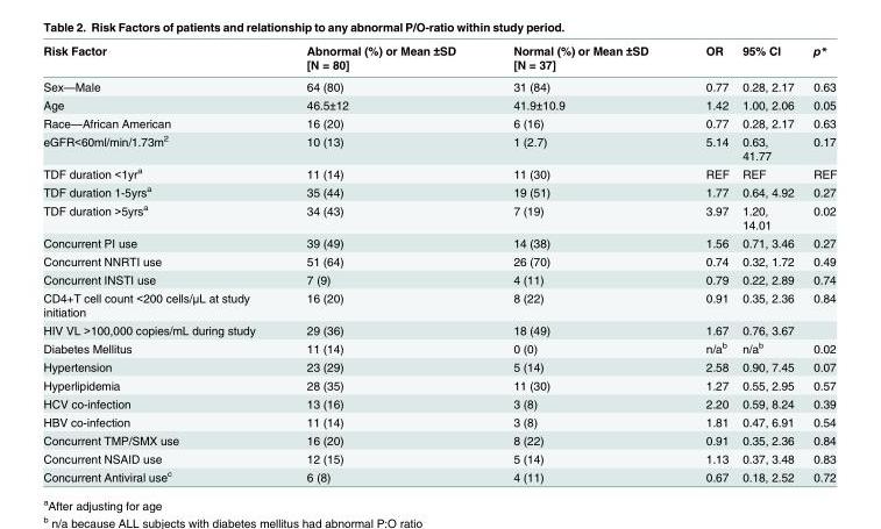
<table><thead><tr><td>Risk Factor</td><td>Abnormal (%) or Mean ±SD [N = 80]</td><td>Normal (%) or Mean ±SD [N = 37]</td><td>OR</td><td>95% CI</td><td>p*</td></tr></thead><tbody><tr><td>Sex—Male</td><td>64 (80)</td><td>31 (84)</td><td>0.77</td><td>0.28, 2.17</td><td>0.63</td></tr><tr><td>Age</td><td>46.5±12</td><td>41.9±10.9</td><td>1.42</td><td>1.00, 2.06</td><td>0.05</td></tr><tr><td>Race—African American</td><td>16 (20)</td><td>6 (16)</td><td>0.77</td><td>0.28, 2.17</td><td>0.63</td></tr><tr><td>eGFR&lt;60ml/min/1.73m<sup>2</sup></td><td>10 (13)</td><td>1 (2.7)</td><td>5.14</td><td>0.63, 41.77</td><td>0.17</td></tr><tr><td>TDF duration &lt;1yr<sup>a</sup></td><td>11 (14)</td><td>11 (30)</td><td>REF</td><td>REF</td><td>REF</td></tr><tr><td>TDF duration 1-5yrs<sup>a</sup></td><td>35 (44)</td><td>19 (51)</td><td>1.77</td><td>0.64, 4.92</td><td>0.27</td></tr><tr><td>TDF duration &gt;5yrs<sup>a</sup></td><td>34 (43)</td><td>7 (19)</td><td>3.97</td><td>1.20, 14.01</td><td>0.02</td></tr><tr><td>Concurrent PI use</td><td>39 (49)</td><td>14 (38)</td><td>1.56</td><td>0.71, 3.46</td><td>0.27</td></tr><tr><td>Concurrent NNRTI use</td><td>51 (64)</td><td>26 (70)</td><td>0.74</td><td>0.32, 1.72</td><td>0.49</td></tr><tr><td>Concurrent INSTI use</td><td>7 (9)</td><td>4 (11)</td><td>0.79</td><td>0.22, 2.89</td><td>0.74</td></tr><tr><td>CD4+T cell count &lt;200 cells/μL at study initiation</td><td>16 (20)</td><td>8 (22)</td><td>0.91</td><td>0.35, 2.36</td><td>0.84</td></tr><tr><td>HIV VL &gt;100,000 copies/mL during study</td><td>29 (36)</td><td>18 (49)</td><td>1.67</td><td>0.76, 3.67</td><td></td></tr><tr><td>Diabetes Mellitus</td><td>11 (14)</td><td>0 (0)</td><td>n/a<sup>b</sup></td><td>n/a<sup>b</sup></td><td>0.02</td></tr><tr><td>Hypertension</td><td>23 (29)</td><td>5 (14)</td><td>2.58</td><td>0.90, 7.45</td><td>0.07</td></tr><tr><td>Hyperlipidemia</td><td>28 (35)</td><td>11 (30)</td><td>1.27</td><td>0.55, 2.95</td><td>0.57</td></tr><tr><td>HCV co-infection</td><td>13 (16)</td><td>3 (8)</td><td>2.20</td><td>0.59, 8.24</td><td>0.39</td></tr><tr><td>HBV co-infection</td><td>11 (14)</td><td>3 (8)</td><td>1.81</td><td>0.47, 6.91</td><td>0.54</td></tr><tr><td>Concurrent TMP/SMX use</td><td>16 (20)</td><td>8 (22)</td><td>0.91</td><td>0.35, 2.36</td><td>0.84</td></tr><tr><td>Concurrent NSAID use</td><td>12 (15)</td><td>5 (14)</td><td>1.13</td><td>0.37, 3.48</td><td>0.83</td></tr><tr><td>Concurrent Antiviral use<sup>c</sup></td><td>6 (8)</td><td>4 (11)</td><td>0.67</td><td>0.18, 2.52</td><td>0.72</td></tr></tbody></table>